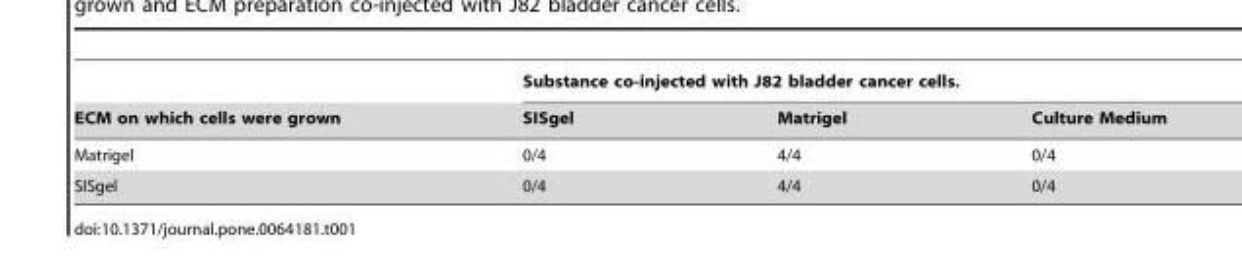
<table><thead><tr><td rowspan="2">ECM on which cells were grown</td><td colspan="3">Substance co-injected with J82 bladder cancer cells.</td></tr><tr><td>SISgel</td><td>Matrigel</td><td>Culture Medium</td></tr></thead><tbody><tr><td>Matrigel</td><td>0/4</td><td>4/4</td><td>0/4</td></tr><tr><td>SISgel</td><td>0/4</td><td>4/4</td><td>0/4</td></tr></tbody></table>